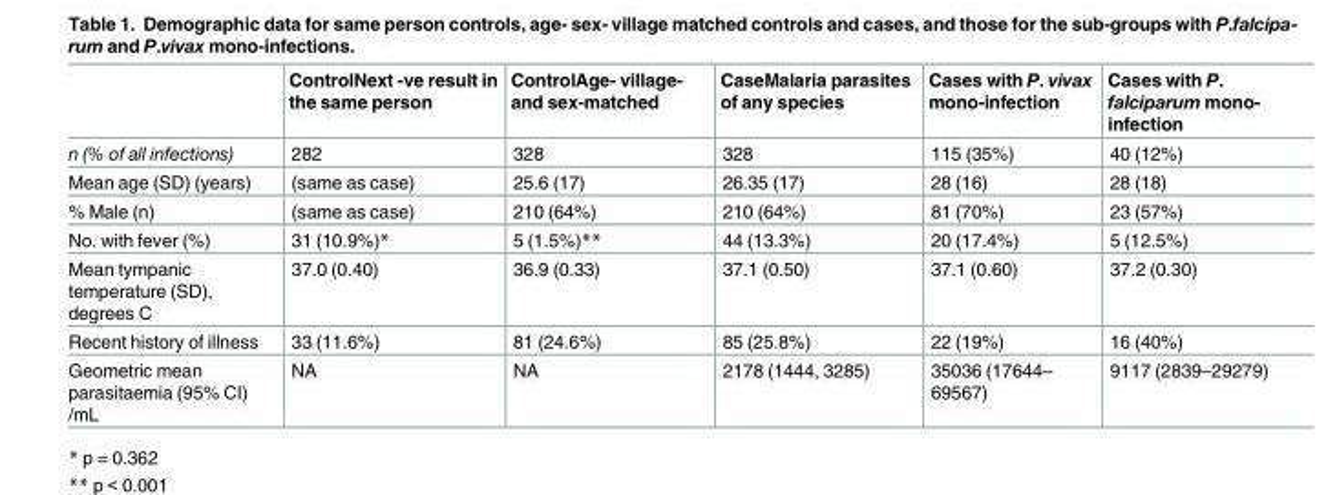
<table><thead><tr><td></td><td>ControlNext -ve result in the same person</td><td>ControlAge- village- and sex-matched</td><td>CaseMalaria parasites of any species</td><td>Cases with P. vivax mono-infection</td><td>Cases with P. falciparum mono- infection</td></tr></thead><tbody><tr><td>n (% of all infections)</td><td>282</td><td>328</td><td>328</td><td>115 (35%)</td><td>40 (12%)</td></tr><tr><td>Mean age (SD) (years)</td><td>(same as case)</td><td>25.6 (17)</td><td>26.35 (17)</td><td>28 (16)</td><td>28 (18)</td></tr><tr><td>% Male (n)</td><td>(same as case)</td><td>210 (64%)</td><td>210 (64%)</td><td>81 (70%)</td><td>23 (57%)</td></tr><tr><td>No. with fever (%)</td><td>31 (10.9%)*</td><td>5 (1.5%)**</td><td>44 (13.3%)</td><td>20 (17.4%)</td><td>5 (12.5%)</td></tr><tr><td>Mean tympanic temperature (SD), degrees C</td><td>37.0 (0.40)</td><td>36.9 (0.33)</td><td>37.1 (0.50)</td><td>37.1 (0.60)</td><td>37.2 (0.30)</td></tr><tr><td>Recent history of illness</td><td>33 (11.6%)</td><td>81 (24.6%)</td><td>85 (25.8%)</td><td>22 (19%)</td><td>16 (40%)</td></tr><tr><td>Geometric mean parasitaemia (95% CI) /mL</td><td>NA</td><td>NA</td><td>2178 (1444, 3285)</td><td>35036 (17644– 69567)</td><td>9117 (2839–29279)</td></tr></tbody></table>